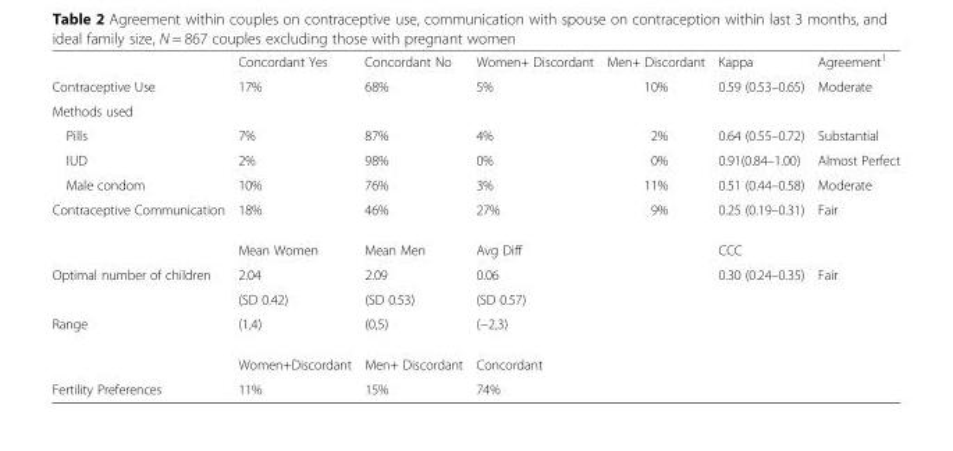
<table><thead><tr><td></td><td>Concordant Yes</td><td>Concordant No</td><td>Women+ Discordant</td><td>Men+ Discordant</td><td>Kappa</td><td>Agreement<sup>1</sup></td></tr></thead><tbody><tr><td>Contraceptive Use</td><td>17%</td><td>68%</td><td>5%</td><td>10%</td><td>0.59 (0.53–0.65)</td><td>Moderate</td></tr><tr><td colspan="7">Methods used</td></tr><tr><td>Pills</td><td>7%</td><td>87%</td><td>4%</td><td>2%</td><td>0.64 (0.55–0.72)</td><td>Substantial</td></tr><tr><td>IUD</td><td>2%</td><td>98%</td><td>0%</td><td>0%</td><td>0.91(0.84–1.00)</td><td>Almost Perfect</td></tr><tr><td>Male condom</td><td>10%</td><td>76%</td><td>3%</td><td>11%</td><td>0.51 (0.44–0.58)</td><td>Moderate</td></tr><tr><td rowspan="2">Contraceptive Communication</td><td>18%</td><td>46%</td><td>27%</td><td>9%</td><td>0.25 (0.19–0.31)</td><td>Fair</td></tr><tr><td>Mean Women</td><td>Mean Men</td><td>Avg Diff</td><td></td><td>CCC</td><td></td></tr><tr><td rowspan="2">Optimal number of children</td><td>2.04</td><td>2.09</td><td>0.06</td><td rowspan="3"></td><td rowspan="3">0.30 (0.24–0.35)</td><td rowspan="3">Fair</td></tr><tr><td>(SD 0.42)</td><td>(SD 0.53)</td><td>(SD 0.57)</td></tr><tr><td rowspan="2">Range</td><td>(1,4)</td><td>(0,5)</td><td>(−2,3)</td></tr><tr><td>Women+Discordant</td><td>Men+ Discordant</td><td>Concordant</td><td></td><td></td><td></td></tr><tr><td>Fertility Preferences</td><td>11%</td><td>15%</td><td>74%</td><td></td><td></td><td></td></tr></tbody></table>